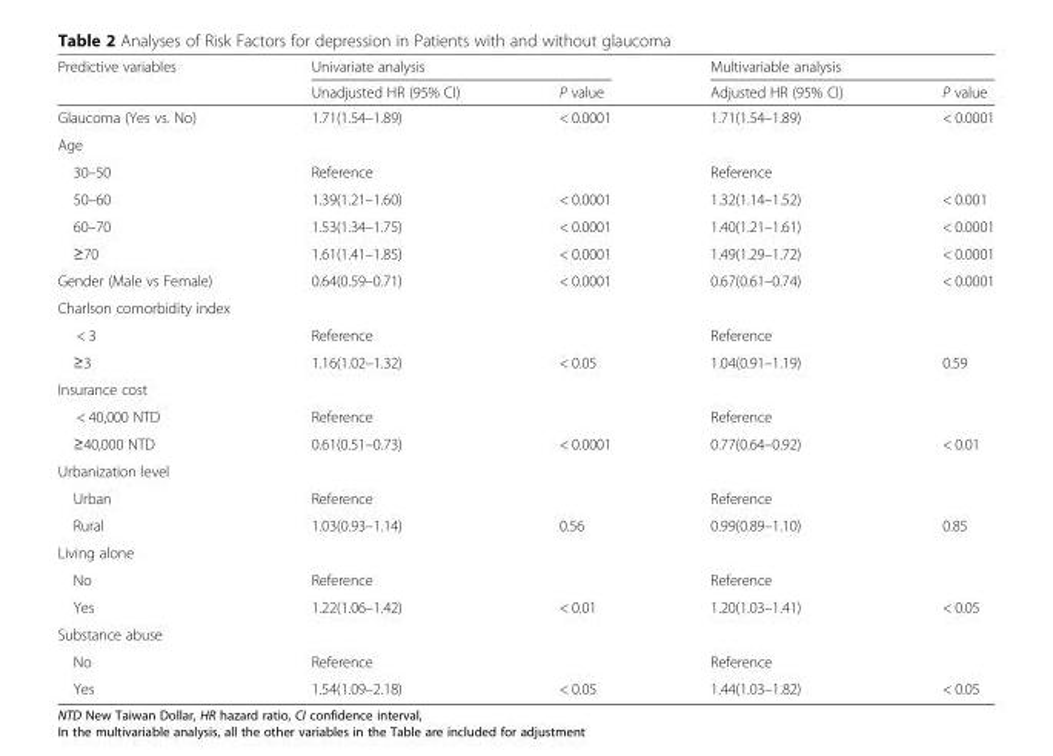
<table><thead><tr><td rowspan="2">Predictive variables</td><td colspan="2">Univariate analysis</td><td colspan="2">Multivariable analysis</td></tr><tr><td>Unadjusted HR (95% CI)</td><td>P value</td><td>Adjusted HR (95% CI)</td><td>P value</td></tr></thead><tbody><tr><td>Glaucoma (Yes vs. No)</td><td>1.71(1.54–1.89)</td><td>&lt; 0.0001</td><td>1.71(1.54–1.89)</td><td>&lt; 0.0001</td></tr><tr><td colspan="5">Age</td></tr><tr><td>30–50</td><td>Reference</td><td></td><td>Reference</td><td></td></tr><tr><td>50–60</td><td>1.39(1.21–1.60)</td><td>&lt; 0.0001</td><td>1.32(1.14–1.52)</td><td>&lt; 0.001</td></tr><tr><td>60–70</td><td>1.53(1.34–1.75)</td><td>&lt; 0.0001</td><td>1.40(1.21–1.61)</td><td>&lt; 0.0001</td></tr><tr><td>≥70</td><td>1.61(1.41–1.85)</td><td>&lt; 0.0001</td><td>1.49(1.29–1.72)</td><td>&lt; 0.0001</td></tr><tr><td>Gender (Male vs Female)</td><td>0.64(0.59–0.71)</td><td>&lt; 0.0001</td><td>0.67(0.61–0.74)</td><td>&lt; 0.0001</td></tr><tr><td colspan="5">Charlson comorbidity index</td></tr><tr><td>&lt; 3</td><td>Reference</td><td></td><td>Reference</td><td></td></tr><tr><td>≥3</td><td>1.16(1.02–1.32)</td><td>&lt; 0.05</td><td>1.04(0.91–1.19)</td><td>0.59</td></tr><tr><td colspan="5">Insurance cost</td></tr><tr><td>&lt; 40,000 NTD</td><td>Reference</td><td></td><td>Reference</td><td></td></tr><tr><td>≥40,000 NTD</td><td>0.61(0.51–0.73)</td><td>&lt; 0.0001</td><td>0.77(0.64–0.92)</td><td>&lt; 0.01</td></tr><tr><td colspan="5">Urbanization level</td></tr><tr><td>Urban</td><td>Reference</td><td></td><td>Reference</td><td></td></tr><tr><td>Rural</td><td>1.03(0.93–1.14)</td><td>0.56</td><td>0.99(0.89–1.10)</td><td>0.85</td></tr><tr><td colspan="5">Living alone</td></tr><tr><td>No</td><td>Reference</td><td></td><td>Reference</td><td></td></tr><tr><td>Yes</td><td>1.22(1.06–1.42)</td><td>&lt; 0.01</td><td>1.20(1.03–1.41)</td><td>&lt; 0.05</td></tr><tr><td colspan="5">Substance abuse</td></tr><tr><td>No</td><td>Reference</td><td></td><td>Reference</td><td></td></tr><tr><td>Yes</td><td>1.54(1.09–2.18)</td><td>&lt; 0.05</td><td>1.44(1.03–1.82)</td><td>&lt; 0.05</td></tr></tbody></table>